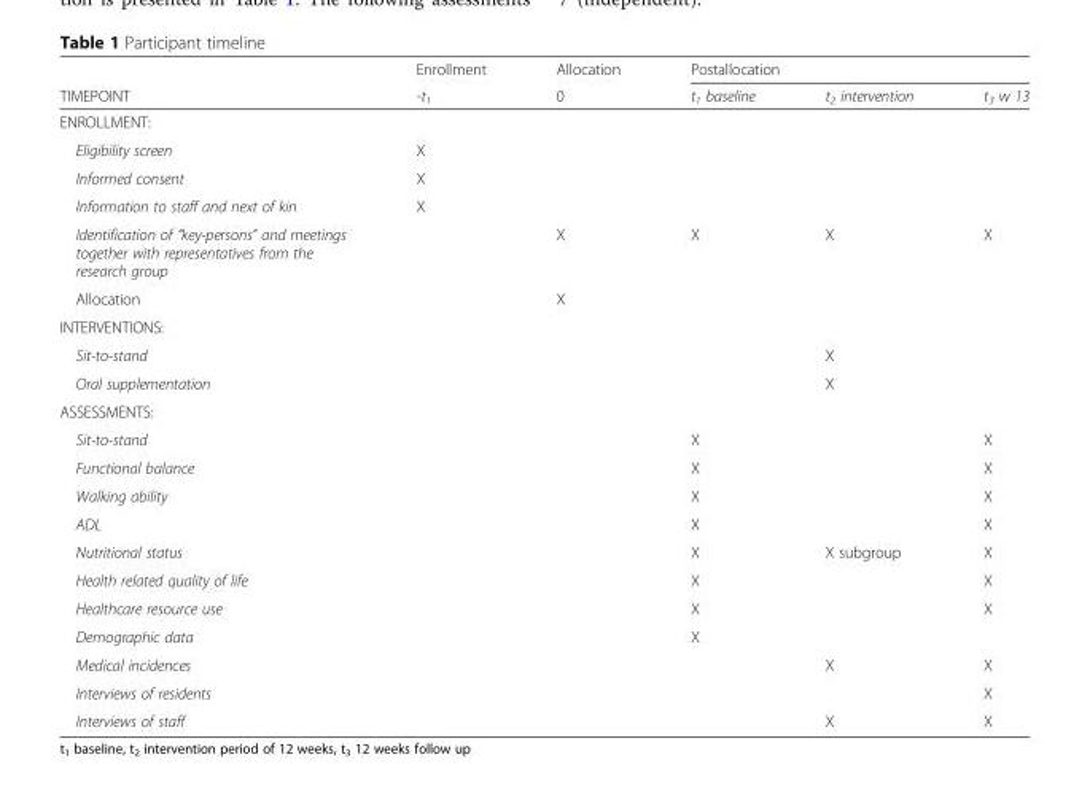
<table><thead><tr><td rowspan="2">TIMEPOINT</td><td rowspan="2">Enrollment -t<sub>1</sub></td><td rowspan="2">Allocation 0</td><td colspan="3">Postallocation</td></tr><tr><td>t<sub>1</sub> baseline</td><td>t<sub>2</sub> intervention</td><td>t<sub>3</sub> w 13</td></tr></thead><tbody><tr><td colspan="6">ENROLLMENT:</td></tr><tr><td>Eligibility screen</td><td>X</td><td></td><td></td><td></td><td></td></tr><tr><td>Informed consent</td><td>X</td><td></td><td></td><td></td><td></td></tr><tr><td>Information to staff and next of kin</td><td>X</td><td></td><td></td><td></td><td></td></tr><tr><td>Identification of “key-persons” and meetings together with representatives from the research group</td><td></td><td>X</td><td>X</td><td>X</td><td>X</td></tr><tr><td>Allocation</td><td></td><td>X</td><td></td><td></td><td></td></tr><tr><td colspan="6">INTERVENTIONS:</td></tr><tr><td>Sit-to-stand</td><td></td><td></td><td></td><td>X</td><td></td></tr><tr><td>Oral supplementation</td><td></td><td></td><td></td><td>X</td><td></td></tr><tr><td colspan="6">ASSESSMENTS:</td></tr><tr><td>Sit-to-stand</td><td></td><td></td><td>X</td><td></td><td>X</td></tr><tr><td>Functional balance</td><td></td><td></td><td>X</td><td></td><td>X</td></tr><tr><td>Walking ability</td><td></td><td></td><td>X</td><td></td><td>X</td></tr><tr><td>ADL</td><td></td><td></td><td>X</td><td></td><td>X</td></tr><tr><td>Nutritional status</td><td></td><td></td><td>X</td><td>X subgroup</td><td>X</td></tr><tr><td>Health related quality of life</td><td></td><td></td><td>X</td><td></td><td>X</td></tr><tr><td>Healthcare resource use</td><td></td><td></td><td>X</td><td></td><td>X</td></tr><tr><td>Demographic data</td><td></td><td></td><td>X</td><td></td><td></td></tr><tr><td>Medical incidences</td><td></td><td></td><td></td><td>X</td><td>X</td></tr><tr><td>Interviews of residents</td><td></td><td></td><td></td><td></td><td>X</td></tr><tr><td>Interviews of staff</td><td></td><td></td><td></td><td>X</td><td>X</td></tr></tbody></table>